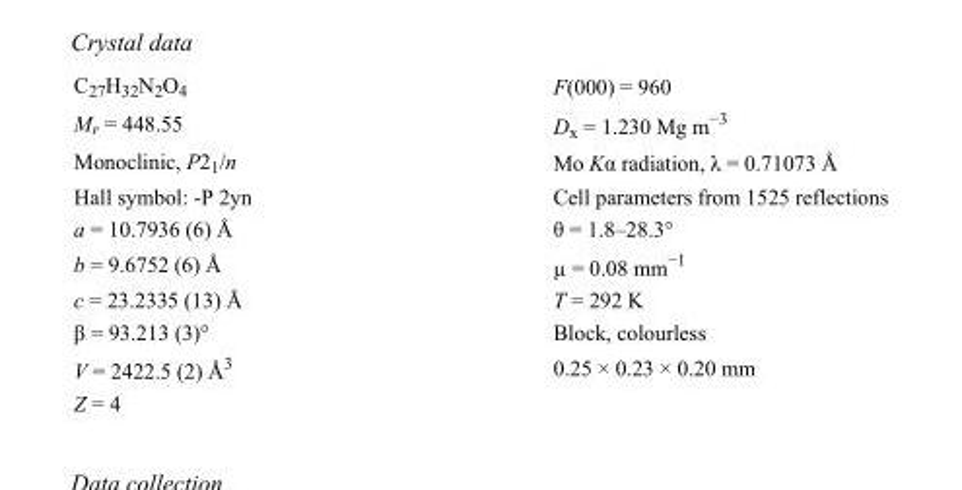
<table><tbody><tr><td>C<sub>27</sub>H<sub>32</sub>N<sub>2</sub>O<sub>4</sub></td><td>F(000) = 960</td></tr><tr><td>M<sub>r</sub> = 448.55</td><td>D<sub>x</sub> = 1.230 Mg m<sup>−3</sup></td></tr><tr><td>Monoclinic, P2<sub>1</sub>/n</td><td>Mo Kα radiation, λ = 0.71073 Å</td></tr><tr><td>Hall symbol: -P 2yn</td><td>Cell parameters from 1525 reflections</td></tr><tr><td>a = 10.7936 (6) Å</td><td>θ = 1.8–28.3°</td></tr><tr><td>b = 9.6752 (6) Å</td><td>µ = 0.08 mm<sup>−1</sup></td></tr><tr><td>c = 23.2335 (13) Å</td><td>T = 292 K</td></tr><tr><td>β = 93.213 (3)°</td><td>Block, colourless</td></tr><tr><td>V = 2422.5 (2) Å<sup>3</sup></td><td>0.25 × 0.23 × 0.20 mm</td></tr><tr><td>Z = 4</td><td></td></tr></tbody></table>